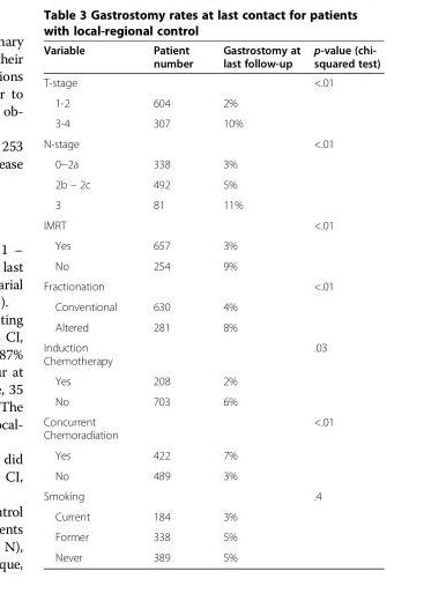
<table><thead><tr><td>Variable</td><td>Patient number</td><td>Gastrostomy at last follow-up</td><td>p-value (chi- squared test)</td></tr></thead><tbody><tr><td>T-stage</td><td></td><td></td><td>&lt;.01</td></tr><tr><td>1-2</td><td>604</td><td>2%</td><td></td></tr><tr><td>3-4</td><td>307</td><td>10%</td><td></td></tr><tr><td>N-stage</td><td></td><td></td><td>&lt;.01</td></tr><tr><td>0−2a</td><td>338</td><td>3%</td><td></td></tr><tr><td>2b – 2c</td><td>492</td><td>5%</td><td></td></tr><tr><td>3</td><td>81</td><td>11%</td><td></td></tr><tr><td>IMRT</td><td></td><td></td><td>&lt;.01</td></tr><tr><td>Yes</td><td>657</td><td>3%</td><td></td></tr><tr><td>No</td><td>254</td><td>9%</td><td></td></tr><tr><td>Fractionation</td><td></td><td></td><td>&lt;.01</td></tr><tr><td>Conventional</td><td>630</td><td>4%</td><td></td></tr><tr><td>Altered</td><td>281</td><td>8%</td><td></td></tr><tr><td>Induction Chemotherapy</td><td></td><td></td><td>.03</td></tr><tr><td>Yes</td><td>208</td><td>2%</td><td></td></tr><tr><td>No</td><td>703</td><td>6%</td><td></td></tr><tr><td>Concurrent Chemoradiation</td><td></td><td></td><td>&lt;.01</td></tr><tr><td>Yes</td><td>422</td><td>7%</td><td></td></tr><tr><td>No</td><td>489</td><td>3%</td><td></td></tr><tr><td>Smoking</td><td></td><td></td><td>.4</td></tr><tr><td>Current</td><td>184</td><td>3%</td><td></td></tr><tr><td>Former</td><td>338</td><td>5%</td><td></td></tr><tr><td>Never</td><td>389</td><td>5%</td><td></td></tr></tbody></table>